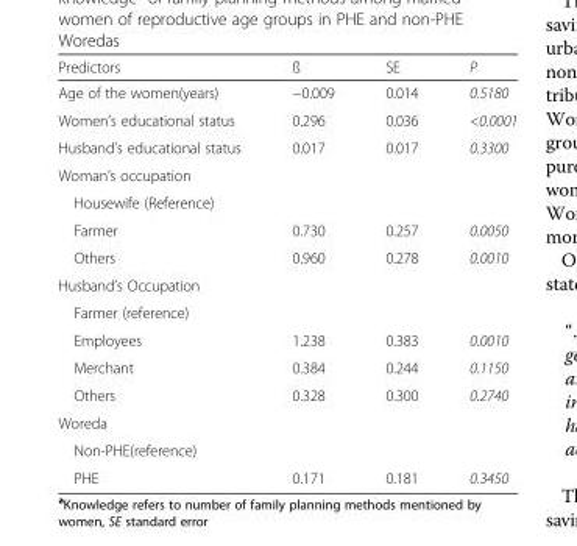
<table><thead><tr><td>Predictors</td><td>ß</td><td>SE</td><td>P</td></tr></thead><tbody><tr><td>Age of the women(years)</td><td>−0.009</td><td>0.014</td><td>0.5180</td></tr><tr><td>Women’s educational status</td><td>0.296</td><td>0.036</td><td>&lt;0.0001</td></tr><tr><td>Husband’s educational status</td><td>0.017</td><td>0.017</td><td>0.3300</td></tr><tr><td colspan="4">Woman’s occupation</td></tr><tr><td colspan="4">Housewife (Reference)</td></tr><tr><td>Farmer</td><td>0.730</td><td>0.257</td><td>0.0050</td></tr><tr><td>Others</td><td>0.960</td><td>0.278</td><td>0.0010</td></tr><tr><td colspan="4">Husband’s Occupation</td></tr><tr><td colspan="4">Farmer (reference)</td></tr><tr><td>Employees</td><td>1.238</td><td>0.383</td><td>0.0010</td></tr><tr><td>Merchant</td><td>0.384</td><td>0.244</td><td>0.1150</td></tr><tr><td>Others</td><td>0.328</td><td>0.300</td><td>0.2740</td></tr><tr><td colspan="4">Woreda</td></tr><tr><td colspan="4">Non-PHE(reference)</td></tr><tr><td>PHE</td><td>0.171</td><td>0.181</td><td>0.3450</td></tr></tbody></table>